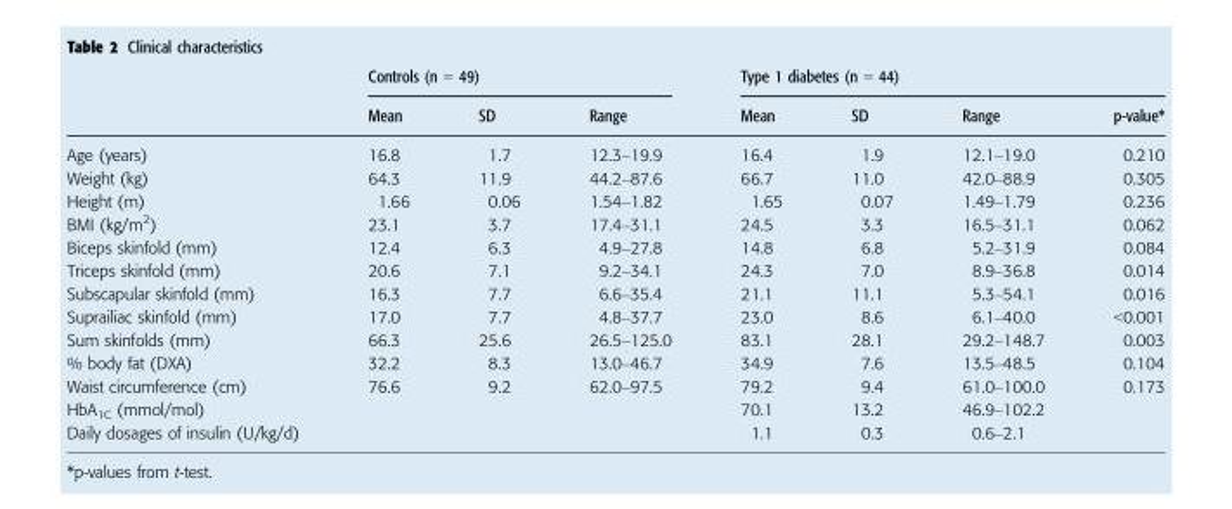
<table><thead><tr><td rowspan="2"></td><td colspan="3">Controls (n = 49)</td><td colspan="4">Type 1 diabetes (n = 44)</td></tr><tr><td>Mean</td><td>SD</td><td>Range</td><td>Mean</td><td>SD</td><td>Range</td><td>p-value*</td></tr></thead><tbody><tr><td>Age (years)</td><td>16.8</td><td>1.7</td><td>12.3–19.9</td><td>16.4</td><td>1.9</td><td>12.1–19.0</td><td>0.210</td></tr><tr><td>Weight (kg)</td><td>64.3</td><td>11.9</td><td>44.2–87.6</td><td>66.7</td><td>11.0</td><td>42.0–88.9</td><td>0.305</td></tr><tr><td>Height (m)</td><td>1.66</td><td>0.06</td><td>1.54–1.82</td><td>1.65</td><td>0.07</td><td>1.49–1.79</td><td>0.236</td></tr><tr><td>BMI (kg/m<sup>2</sup>)</td><td>23.1</td><td>3.7</td><td>17.4–31.1</td><td>24.5</td><td>3.3</td><td>16.5–31.1</td><td>0.062</td></tr><tr><td>Biceps skinfold (mm)</td><td>12.4</td><td>6.3</td><td>4.9–27.8</td><td>14.8</td><td>6.8</td><td>5.2–31.9</td><td>0.084</td></tr><tr><td>Triceps skinfold (mm)</td><td>20.6</td><td>7.1</td><td>9.2–34.1</td><td>24.3</td><td>7.0</td><td>8.9–36.8</td><td>0.014</td></tr><tr><td>Subscapular skinfold (mm)</td><td>16.3</td><td>7.7</td><td>6.6–35.4</td><td>21.1</td><td>11.1</td><td>5.3–54.1</td><td>0.016</td></tr><tr><td>Suprailiac skinfold (mm)</td><td>17.0</td><td>7.7</td><td>4.8–37.7</td><td>23.0</td><td>8.6</td><td>6.1–40.0</td><td>&lt;0.001</td></tr><tr><td>Sum skinfolds (mm)</td><td>66.3</td><td>25.6</td><td>26.5–125.0</td><td>83.1</td><td>28.1</td><td>29.2–148.7</td><td>0.003</td></tr><tr><td>% body fat (DXA)</td><td>32.2</td><td>8.3</td><td>13.0–46.7</td><td>34.9</td><td>7.6</td><td>13.5–48.5</td><td>0.104</td></tr><tr><td>Waist circumference (cm)</td><td>76.6</td><td>9.2</td><td>62.0–97.5</td><td>79.2</td><td>9.4</td><td>61.0–100.0</td><td>0.173</td></tr><tr><td>HbA<sub>1C</sub> (mmol/mol)</td><td></td><td></td><td></td><td>70.1</td><td>13.2</td><td>46.9–102.2</td><td></td></tr><tr><td>Daily dosages of insulin (U/kg/d)</td><td></td><td></td><td></td><td>1.1</td><td>0.3</td><td>0.6–2.1</td><td></td></tr></tbody></table>